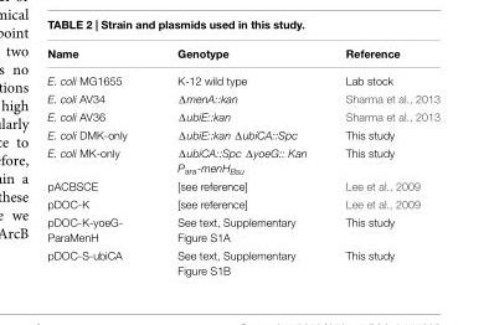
<table><thead><tr><td>Name</td><td>Genotype</td><td>Reference</td></tr></thead><tbody><tr><td>E. coli MG1655</td><td>K-12 wild type</td><td>Lab stock</td></tr><tr><td>E. coli AV34</td><td>ΔmenA::kan</td><td>Sharma et al., 2013</td></tr><tr><td>E. coli AV36</td><td>ΔubiE::kan</td><td>Sharma et al., 2013</td></tr><tr><td>E. coli DMK-only</td><td>ΔubiE::kan ΔubiCA::Spc</td><td>This study</td></tr><tr><td>E. coli MK-only</td><td>ΔubiCA::Spc ΔyoeG:: Kan P<sub>ara</sub>-menH<sub>Bsu</sub></td><td>This study</td></tr><tr><td>pACBSCE</td><td>[see reference]</td><td>Lee et al., 2009</td></tr><tr><td>pDOC-K</td><td>[see reference]</td><td>Lee et al., 2009</td></tr><tr><td>pDOC-K-yoeG- ParaMenH</td><td>See text, Supplementary Figure S1A</td><td>This study</td></tr><tr><td>pDOC-S-ubiCA</td><td>See text, Supplementary Figure S1B</td><td>This study</td></tr></tbody></table>